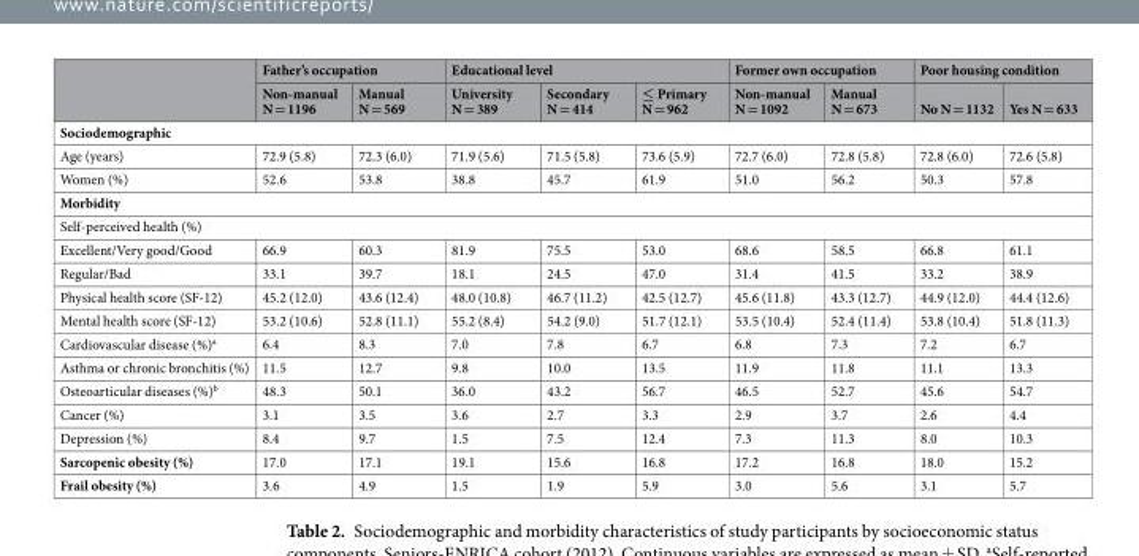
<table><thead><tr><td rowspan="2"></td><td colspan="2">Father’s occupation</td><td colspan="3">Educational level</td><td colspan="2">Former own occupation</td><td colspan="2">Poor housing condition</td></tr><tr><td>Non-manual N = 1196</td><td>Manual N = 569</td><td>University N = 389</td><td>Secondary N = 414</td><td>≤ Primary N = 962</td><td>Non-manual N = 1092</td><td>Manual N = 673</td><td>No N = 1132</td><td>Yes N = 633</td></tr></thead><tbody><tr><td colspan="10">Sociodemographic</td></tr><tr><td>Age (years)</td><td>72.9 (5.8)</td><td>72.3 (6.0)</td><td>71.9 (5.6)</td><td>71.5 (5.8)</td><td>73.6 (5.9)</td><td>72.7 (6.0)</td><td>72.8 (5.8)</td><td>72.8 (6.0)</td><td>72.6 (5.8)</td></tr><tr><td>Women (%)</td><td>52.6</td><td>53.8</td><td>38.8</td><td>45.7</td><td>61.9</td><td>51.0</td><td>56.2</td><td>50.3</td><td>57.8</td></tr><tr><td colspan="10">Morbidity</td></tr><tr><td colspan="10">Self-perceived health (%)</td></tr><tr><td>Excellent/Very good/Good</td><td>66.9</td><td>60.3</td><td>81.9</td><td>75.5</td><td>53.0</td><td>68.6</td><td>58.5</td><td>66.8</td><td>61.1</td></tr><tr><td>Regular/Bad</td><td>33.1</td><td>39.7</td><td>18.1</td><td>24.5</td><td>47.0</td><td>31.4</td><td>41.5</td><td>33.2</td><td>38.9</td></tr><tr><td>Physical health score (SF-12)</td><td>45.2 (12.0)</td><td>43.6 (12.4)</td><td>48.0 (10.8)</td><td>46.7 (11.2)</td><td>42.5 (12.7)</td><td>45.6 (11.8)</td><td>43.3 (12.7)</td><td>44.9 (12.0)</td><td>44.4 (12.6)</td></tr><tr><td>Mental health score (SF-12)</td><td>53.2 (10.6)</td><td>52.8 (11.1)</td><td>55.2 (8.4)</td><td>54.2 (9.0)</td><td>51.7 (12.1)</td><td>53.5 (10.4)</td><td>52.4 (11.4)</td><td>53.8 (10.4)</td><td>51.8 (11.3)</td></tr><tr><td>Cardiovascular disease (%)<sup>a</sup></td><td>6.4</td><td>8.3</td><td>7.0</td><td>7.8</td><td>6.7</td><td>6.8</td><td>7.3</td><td>7.2</td><td>6.7</td></tr><tr><td>Asthma or chronic bronchitis (%)</td><td>11.5</td><td>12.7</td><td>9.8</td><td>10.0</td><td>13.5</td><td>11.9</td><td>11.8</td><td>11.1</td><td>13.3</td></tr><tr><td>Osteoarticular diseases (%)<sup>b</sup></td><td>48.3</td><td>50.1</td><td>36.0</td><td>43.2</td><td>56.7</td><td>46.5</td><td>52.7</td><td>45.6</td><td>54.7</td></tr><tr><td>Cancer (%)</td><td>3.1</td><td>3.5</td><td>3.6</td><td>2.7</td><td>3.3</td><td>2.9</td><td>3.7</td><td>2.6</td><td>4.4</td></tr><tr><td>Depression (%)</td><td>8.4</td><td>9.7</td><td>1.5</td><td>7.5</td><td>12.4</td><td>7.3</td><td>11.3</td><td>8.0</td><td>10.3</td></tr><tr><td>Sarcopenic obesity (%)</td><td>17.0</td><td>17.1</td><td>19.1</td><td>15.6</td><td>16.8</td><td>17.2</td><td>16.8</td><td>18.0</td><td>15.2</td></tr><tr><td>Frail obesity (%)</td><td>3.6</td><td>4.9</td><td>1.5</td><td>1.9</td><td>5.9</td><td>3.0</td><td>5.6</td><td>3.1</td><td>5.7</td></tr></tbody></table>